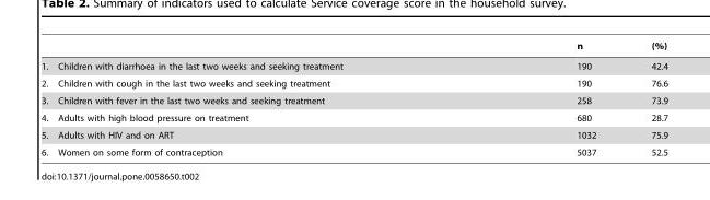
<table><thead><tr><td></td><td>n</td><td>(%)</td></tr></thead><tbody><tr><td>1. Children with diarrhoea in the last two weeks and seeking treatment</td><td>190</td><td>42.4</td></tr><tr><td>2. Children with cough in the last two weeks and seeking treatment</td><td>190</td><td>76.6</td></tr><tr><td>3. Children with fever in the last two weeks and seeking treatment</td><td>258</td><td>73.9</td></tr><tr><td>4. Adults with high blood pressure on treatment</td><td>680</td><td>28.7</td></tr><tr><td>5. Adults with HIV and on ART</td><td>1032</td><td>75.9</td></tr><tr><td>6. Women on some form of contraception</td><td>5037</td><td>52.5</td></tr></tbody></table>